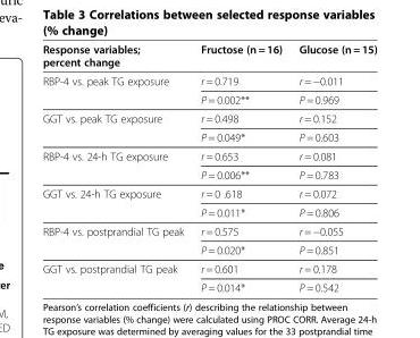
<table><thead><tr><td>Response variables; percent change</td><td>Fructose (n = 16)</td><td>Glucose (n = 15)</td></tr></thead><tbody><tr><td rowspan="2">RBP-4 vs. peak TG exposure</td><td>r = 0.719</td><td>r = −0.011</td></tr><tr><td>P = 0.002**</td><td>P = 0.969</td></tr><tr><td rowspan="2">GGT vs. peak TG exposure</td><td>r = 0.498</td><td>r = 0.152</td></tr><tr><td>P = 0.049*</td><td>P = 0.603</td></tr><tr><td rowspan="2">RBP-4 vs. 24-h TG exposure</td><td>r = 0.653</td><td>r = 0.081</td></tr><tr><td>P = 0.006**</td><td>P = 0.783</td></tr><tr><td rowspan="2">GGT vs. 24-h TG exposure</td><td>r = 0 .618</td><td>r = 0.072</td></tr><tr><td>P = 0.011*</td><td>P = 0.806</td></tr><tr><td rowspan="2">RBP-4 vs. postprandial TG peak</td><td>r = 0.575</td><td>r = −0.055</td></tr><tr><td>P = 0.020*</td><td>P = 0.851</td></tr><tr><td rowspan="2">GGT vs. postprandial TG peak</td><td>r = 0.601</td><td>r = 0.178</td></tr><tr><td>P = 0.014*</td><td>P = 0.542</td></tr></tbody></table>